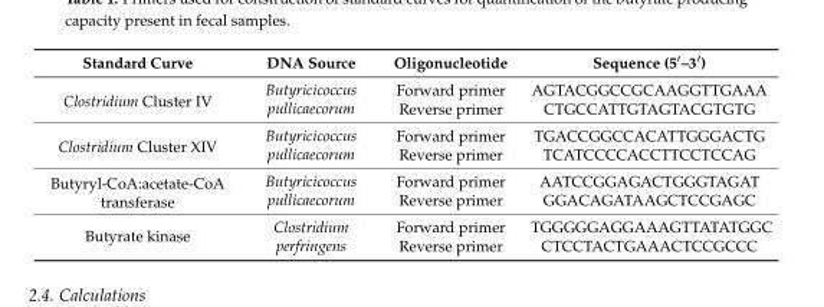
<table><thead><tr><td>Standard Curve</td><td>DNA Source</td><td>Oligonucleotide</td><td>Sequence (5′–3′)</td></tr></thead><tbody><tr><td rowspan="2">Clostridium Cluster IV</td><td rowspan="2">Butyricicoccus pullicaecorum</td><td>Forward primer</td><td>AGTACGGCCGCAAGGTTGAAA</td></tr><tr><td>Reverse primer</td><td>CTGCCATTGTAGTACGTGTG</td></tr><tr><td rowspan="2">Clostridium Cluster XIV</td><td rowspan="2">Butyricicoccus pullicaecorum</td><td>Forward primer</td><td>TGACCGGCCACATTGGGACTG</td></tr><tr><td>Reverse primer</td><td>TCATCCCCACCTTCCTCCAG</td></tr><tr><td rowspan="2">Butyryl-CoA:acetate-CoA transferase</td><td rowspan="2">Butyricicoccus pullicaecorum</td><td>Forward primer</td><td>AATCCGGAGACTGGGTAGAT</td></tr><tr><td>Reverse primer</td><td>GGACAGATAAGCTCCGAGC</td></tr><tr><td rowspan="2">Butyrate kinase</td><td rowspan="2">Clostridium perfringens</td><td>Forward primer</td><td>TGGGGGAGGAAAGTTATATGGC</td></tr><tr><td>Reverse primer</td><td>CTCCTACTGAAACTCCGCCC</td></tr></tbody></table>